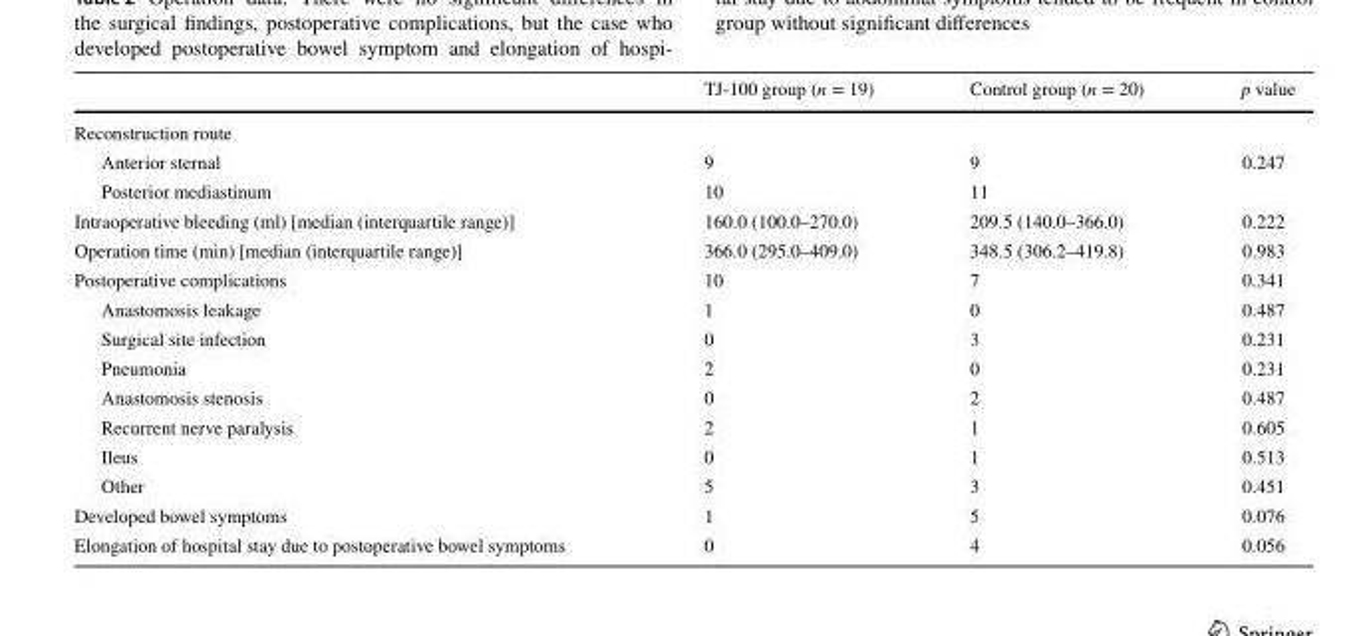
<table><thead><tr><td></td><td>TJ-100 group (n = 19)</td><td>Control group (n = 20)</td><td>p value</td></tr></thead><tbody><tr><td colspan="4">Reconstruction route</td></tr><tr><td>Anterior sternal</td><td>9</td><td>9</td><td rowspan="2">0.247</td></tr><tr><td>Posterior mediastinum</td><td>10</td><td>11</td></tr><tr><td>Intraoperative bleeding (ml) [median (interquartile range)]</td><td>160.0 (100.0–270.0)</td><td>209.5 (140.0–366.0)</td><td>0.222</td></tr><tr><td>Operation time (min) [median (interquartile range)]</td><td>366.0 (295.0–409.0)</td><td>348.5 (306.2–419.8)</td><td>0.983</td></tr><tr><td>Postoperative complications</td><td>10</td><td>7</td><td>0.341</td></tr><tr><td>Anastomosis leakage</td><td>1</td><td>0</td><td>0.487</td></tr><tr><td>Surgical site infection</td><td>0</td><td>3</td><td>0.231</td></tr><tr><td>Pneumonia</td><td>2</td><td>0</td><td>0.231</td></tr><tr><td>Anastomosis stenosis</td><td>0</td><td>2</td><td>0.487</td></tr><tr><td>Recurrent nerve paralysis</td><td>2</td><td>1</td><td>0.605</td></tr><tr><td>Ileus</td><td>0</td><td>1</td><td>0.513</td></tr><tr><td>Other</td><td>5</td><td>3</td><td>0.451</td></tr><tr><td>Developed bowel symptoms</td><td>1</td><td>5</td><td>0.076</td></tr><tr><td>Elongation of hospital stay due to postoperative bowel symptoms</td><td>0</td><td>4</td><td>0.056</td></tr></tbody></table>